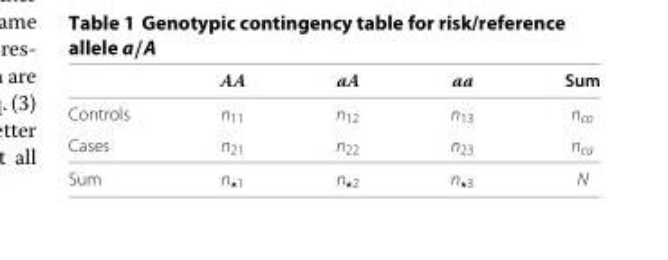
<table><thead><tr><td></td><td>AA</td><td>aA</td><td>aa</td><td>Sum</td></tr></thead><tbody><tr><td>Controls</td><td>n<sub>11</sub></td><td>n<sub>12</sub></td><td>n<sub>13</sub></td><td>n<sub>co</sub></td></tr><tr><td>Cases</td><td>n<sub>21</sub></td><td>n<sub>22</sub></td><td>n<sub>23</sub></td><td>n<sub>ca</sub></td></tr><tr><td>Sum</td><td>n<sub>⋆1</sub></td><td>n<sub>⋆2</sub></td><td>n<sub>⋆3</sub></td><td>N</td></tr></tbody></table>